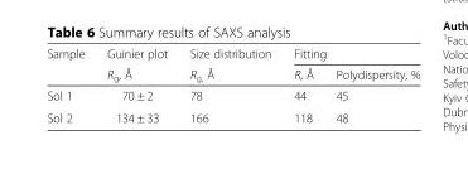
<table><thead><tr><td rowspan="2">Sample</td><td rowspan="2">Guinier plot Rg, Å</td><td rowspan="2">Size distribution Rg, Å</td><td colspan="2">Fitting</td></tr><tr><td>R, Å</td><td>Polydispersity, %</td></tr></thead><tbody><tr><td>Sol 1</td><td>70 ± 2</td><td>78</td><td>44</td><td>45</td></tr><tr><td>Sol 2</td><td>134 ± 33</td><td>166</td><td>118</td><td>48</td></tr></tbody></table>